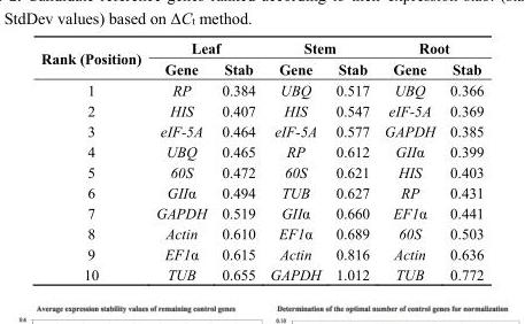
<table><thead><tr><td rowspan="2">Rank (Position)</td><td colspan="2">Leaf</td><td colspan="2">Stem</td><td colspan="2">Root</td></tr><tr><td>Gene</td><td>Stab</td><td>Gene</td><td>Stab</td><td>Gene</td><td>Stab</td></tr></thead><tbody><tr><td>1</td><td>RP</td><td>0.384</td><td>UBQ</td><td>0.517</td><td>UBQ</td><td>0.366</td></tr><tr><td>2</td><td>HIS</td><td>0.407</td><td>HIS</td><td>0.547</td><td>eIF-5A</td><td>0.369</td></tr><tr><td>3</td><td>eIF-5A</td><td>0.464</td><td>eIF-5A</td><td>0.577</td><td>GAPDH</td><td>0.385</td></tr><tr><td>4</td><td>UBQ</td><td>0.465</td><td>RP</td><td>0.612</td><td>GIIα</td><td>0.399</td></tr><tr><td>5</td><td>60S</td><td>0.472</td><td>60S</td><td>0.621</td><td>HIS</td><td>0.403</td></tr><tr><td>6</td><td>GIIα</td><td>0.494</td><td>TUB</td><td>0.627</td><td>RP</td><td>0.431</td></tr><tr><td>7</td><td>GAPDH</td><td>0.519</td><td>GIIα</td><td>0.660</td><td>EF1α</td><td>0.441</td></tr><tr><td>8</td><td>Actin</td><td>0.610</td><td>EF1α</td><td>0.689</td><td>60S</td><td>0.503</td></tr><tr><td>9</td><td>EF1α</td><td>0.615</td><td>Actin</td><td>0.816</td><td>Actin</td><td>0.636</td></tr><tr><td>10</td><td>TUB</td><td>0.655</td><td>GAPDH</td><td>1.012</td><td>TUB</td><td>0.772</td></tr></tbody></table>